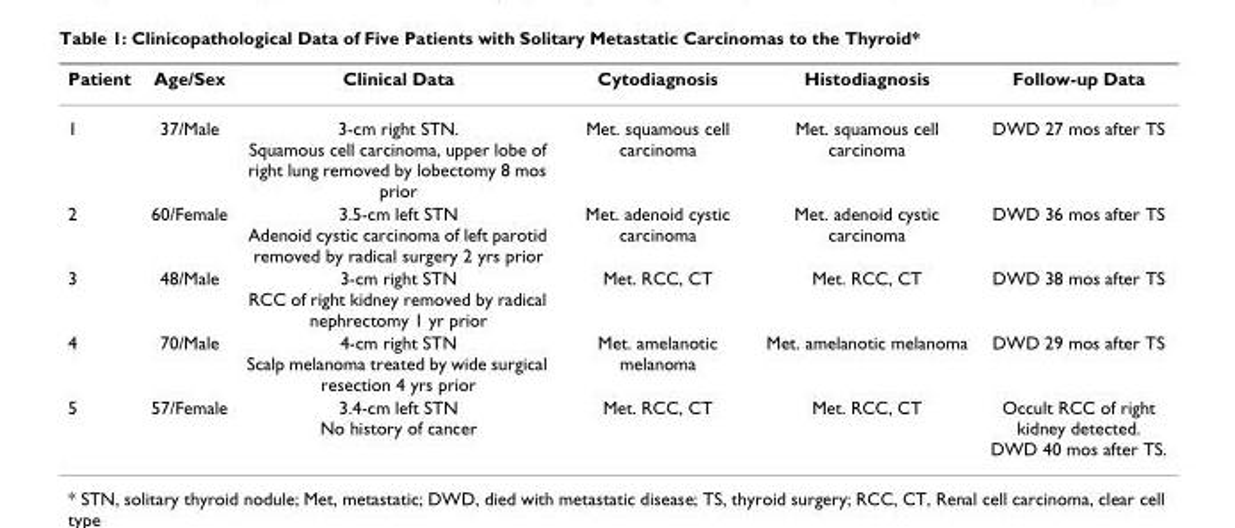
<table><thead><tr><td>Patient</td><td>Age/Sex</td><td>Clinical Data</td><td>Cytodiagnosis</td><td>Histodiagnosis</td><td>Follow-up Data</td></tr></thead><tbody><tr><td>1</td><td>37/Male</td><td>3-cm right STN. Squamous cell carcinoma, upper lobe of right lung removed by lobectomy 8 mos prior</td><td>Met. squamous cell carcinoma</td><td>Met. squamous cell carcinoma</td><td>DWD 27 mos after TS</td></tr><tr><td>2</td><td>60/Female</td><td>3.5-cm left STN Adenoid cystic carcinoma of left parotid removed by radical surgery 2 yrs prior</td><td>Met. adenoid cystic carcinoma</td><td>Met. adenoid cystic carcinoma</td><td>DWD 36 mos after TS</td></tr><tr><td>3</td><td>48/Male</td><td>3-cm right STN RCC of right kidney removed by radical nephrectomy 1 yr prior</td><td>Met. RCC, CT</td><td>Met. RCC, CT</td><td>DWD 38 mos after TS</td></tr><tr><td>4</td><td>70/Male</td><td>4-cm right STN Scalp melanoma treated by wide surgical resection 4 yrs prior</td><td>Met. amelanotic melanoma</td><td>Met. amelanotic melanoma</td><td>DWD 29 mos after TS</td></tr><tr><td>5</td><td>57/Female</td><td>3.4-cm left STN No history of cancer</td><td>Met. RCC, CT</td><td>Met. RCC, CT</td><td>Occult RCC of right kidney detected. DWD 40 mos after TS.</td></tr></tbody></table>